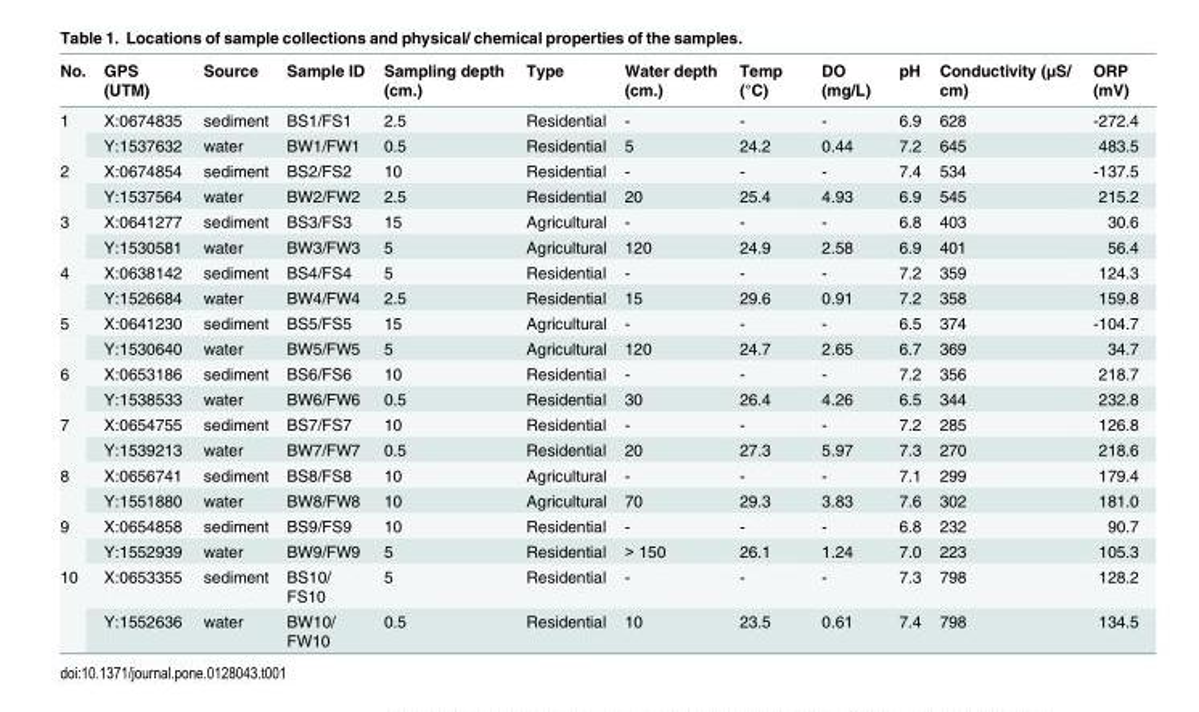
<table><thead><tr><td>No.</td><td>GPS (UTM)</td><td>Source</td><td>Sample ID</td><td>Sampling depth (cm.)</td><td>Type</td><td>Water depth (cm.)</td><td>Temp (°C)</td><td>DO (mg/L)</td><td>pH</td><td>Conductivity (μS/ cm)</td><td>ORP (mV)</td></tr></thead><tbody><tr><td rowspan="2">1</td><td>X:0674835</td><td>sediment</td><td>BS1/FS1</td><td>2.5</td><td>Residential</td><td>-</td><td>-</td><td>-</td><td>6.9</td><td>628</td><td>-272.4</td></tr><tr><td>Y:1537632</td><td>water</td><td>BW1/FW1</td><td>0.5</td><td>Residential</td><td>5</td><td>24.2</td><td>0.44</td><td>7.2</td><td>645</td><td>483.5</td></tr><tr><td rowspan="2">2</td><td>X:0674854</td><td>sediment</td><td>BS2/FS2</td><td>10</td><td>Residential</td><td>-</td><td>-</td><td>-</td><td>7.4</td><td>534</td><td>-137.5</td></tr><tr><td>Y:1537564</td><td>water</td><td>BW2/FW2</td><td>2.5</td><td>Residential</td><td>20</td><td>25.4</td><td>4.93</td><td>6.9</td><td>545</td><td>215.2</td></tr><tr><td rowspan="2">3</td><td>X:0641277</td><td>sediment</td><td>BS3/FS3</td><td>15</td><td>Agricultural</td><td>-</td><td>-</td><td>-</td><td>6.8</td><td>403</td><td>30.6</td></tr><tr><td>Y:1530581</td><td>water</td><td>BW3/FW3</td><td>5</td><td>Agricultural</td><td>120</td><td>24.9</td><td>2.58</td><td>6.9</td><td>401</td><td>56.4</td></tr><tr><td rowspan="2">4</td><td>X:0638142</td><td>sediment</td><td>BS4/FS4</td><td>5</td><td>Residential</td><td>-</td><td>-</td><td>-</td><td>7.2</td><td>359</td><td>124.3</td></tr><tr><td>Y:1526684</td><td>water</td><td>BW4/FW4</td><td>2.5</td><td>Residential</td><td>15</td><td>29.6</td><td>0.91</td><td>7.2</td><td>358</td><td>159.8</td></tr><tr><td rowspan="2">5</td><td>X:0641230</td><td>sediment</td><td>BS5/FS5</td><td>15</td><td>Agricultural</td><td>-</td><td>-</td><td>-</td><td>6.5</td><td>374</td><td>-104.7</td></tr><tr><td>Y:1530640</td><td>water</td><td>BW5/FW5</td><td>5</td><td>Agricultural</td><td>120</td><td>24.7</td><td>2.65</td><td>6.7</td><td>369</td><td>34.7</td></tr><tr><td rowspan="2">6</td><td>X:0653186</td><td>sediment</td><td>BS6/FS6</td><td>10</td><td>Residential</td><td>-</td><td>-</td><td>-</td><td>7.2</td><td>356</td><td>218.7</td></tr><tr><td>Y:1538533</td><td>water</td><td>BW6/FW6</td><td>0.5</td><td>Residential</td><td>30</td><td>26.4</td><td>4.26</td><td>6.5</td><td>344</td><td>232.8</td></tr><tr><td rowspan="2">7</td><td>X:0654755</td><td>sediment</td><td>BS7/FS7</td><td>10</td><td>Residential</td><td>-</td><td>-</td><td>-</td><td>7.2</td><td>285</td><td>126.8</td></tr><tr><td>Y:1539213</td><td>water</td><td>BW7/FW7</td><td>0.5</td><td>Residential</td><td>20</td><td>27.3</td><td>5.97</td><td>7.3</td><td>270</td><td>218.6</td></tr><tr><td rowspan="2">8</td><td>X:0656741</td><td>sediment</td><td>BS8/FS8</td><td>10</td><td>Agricultural</td><td>-</td><td>-</td><td>-</td><td>7.1</td><td>299</td><td>179.4</td></tr><tr><td>Y:1551880</td><td>water</td><td>BW8/FW8</td><td>10</td><td>Agricultural</td><td>70</td><td>29.3</td><td>3.83</td><td>7.6</td><td>302</td><td>181.0</td></tr><tr><td rowspan="2">9</td><td>X:0654858</td><td>sediment</td><td>BS9/FS9</td><td>10</td><td>Residential</td><td>-</td><td>-</td><td>-</td><td>6.8</td><td>232</td><td>90.7</td></tr><tr><td>Y:1552939</td><td>water</td><td>BW9/FW9</td><td>5</td><td>Residential</td><td>&gt; 150</td><td>26.1</td><td>1.24</td><td>7.0</td><td>223</td><td>105.3</td></tr><tr><td rowspan="2">10</td><td>X:0653355</td><td>sediment</td><td>BS10/ FS10</td><td>5</td><td>Residential</td><td>-</td><td>-</td><td>-</td><td>7.3</td><td>798</td><td>128.2</td></tr><tr><td>Y:1552636</td><td>water</td><td>BW10/ FW10</td><td>0.5</td><td>Residential</td><td>10</td><td>23.5</td><td>0.61</td><td>7.4</td><td>798</td><td>134.5</td></tr></tbody></table>